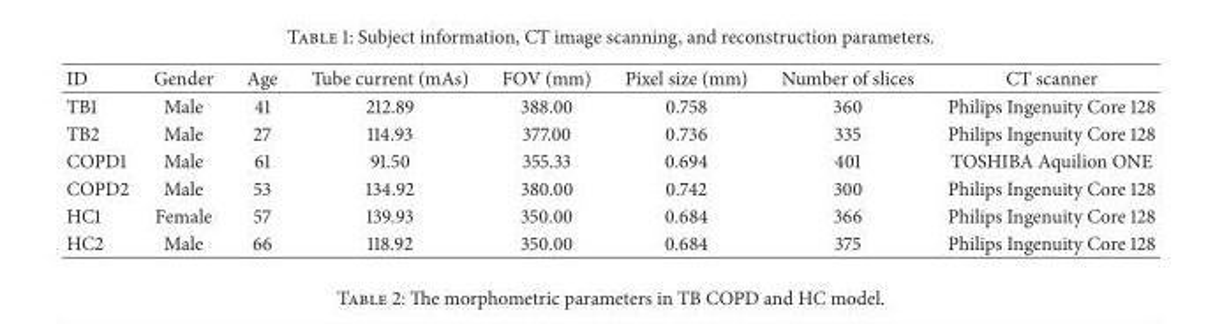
<table><thead><tr><td>ID</td><td>Gender</td><td>Age</td><td>Tube current (mAs)</td><td>FOV (mm)</td><td>Pixel size (mm)</td><td>Number of slices</td><td>CT scanner</td></tr></thead><tbody><tr><td>TB1</td><td>Male</td><td>41</td><td>212.89</td><td>388.00</td><td>0.758</td><td>360</td><td>Philips Ingenuity Core 128</td></tr><tr><td>TB2</td><td>Male</td><td>27</td><td>114.93</td><td>377.00</td><td>0.736</td><td>335</td><td>Philips Ingenuity Core 128</td></tr><tr><td>COPD1</td><td>Male</td><td>61</td><td>91.50</td><td>355.33</td><td>0.694</td><td>401</td><td>TOSHIBA Aquilion ONE</td></tr><tr><td>COPD2</td><td>Male</td><td>53</td><td>134.92</td><td>380.00</td><td>0.742</td><td>300</td><td>Philips Ingenuity Core 128</td></tr><tr><td>HC1</td><td>Female</td><td>57</td><td>139.93</td><td>350.00</td><td>0.684</td><td>366</td><td>Philips Ingenuity Core 128</td></tr><tr><td>HC2</td><td>Male</td><td>66</td><td>118.92</td><td>350.00</td><td>0.684</td><td>375</td><td>Philips Ingenuity Core 128</td></tr></tbody></table>